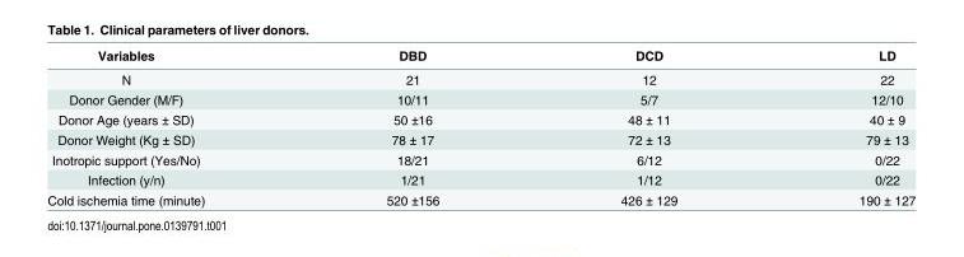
<table><thead><tr><td>Variables</td><td>DBD</td><td>DCD</td><td>LD</td></tr></thead><tbody><tr><td>N</td><td>21</td><td>12</td><td>22</td></tr><tr><td>Donor Gender (M/F)</td><td>10/11</td><td>5/7</td><td>12/10</td></tr><tr><td>Donor Age (years ± SD)</td><td>50 ±16</td><td>48 ± 11</td><td>40 ± 9</td></tr><tr><td>Donor Weight (Kg ± SD)</td><td>78 ± 17</td><td>72 ± 13</td><td>79 ± 13</td></tr><tr><td>Inotropic support (Yes/No)</td><td>18/21</td><td>6/12</td><td>0/22</td></tr><tr><td>Infection (y/n)</td><td>1/21</td><td>1/12</td><td>0/22</td></tr><tr><td>Cold ischemia time (minute)</td><td>520 ±156</td><td>426 ± 129</td><td>190 ± 127</td></tr></tbody></table>